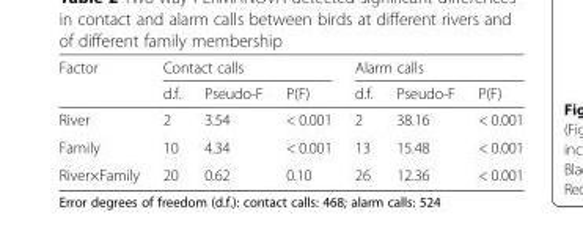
<table><thead><tr><td rowspan="2">Factor</td><td colspan="3">Contact calls</td><td colspan="3">Alarm calls</td></tr><tr><td>d.f.</td><td>Pseudo-F</td><td>P(F)</td><td>d.f.</td><td>Pseudo-F</td><td>P(F)</td></tr></thead><tbody><tr><td>River</td><td>2</td><td>3.54</td><td>&lt; 0.001</td><td>2</td><td>38.16</td><td>&lt; 0.001</td></tr><tr><td>Family</td><td>10</td><td>4.34</td><td>&lt; 0.001</td><td>13</td><td>15.48</td><td>&lt; 0.001</td></tr><tr><td>River×Family</td><td>20</td><td>0.62</td><td>0.10</td><td>26</td><td>12.36</td><td>&lt; 0.001</td></tr></tbody></table>